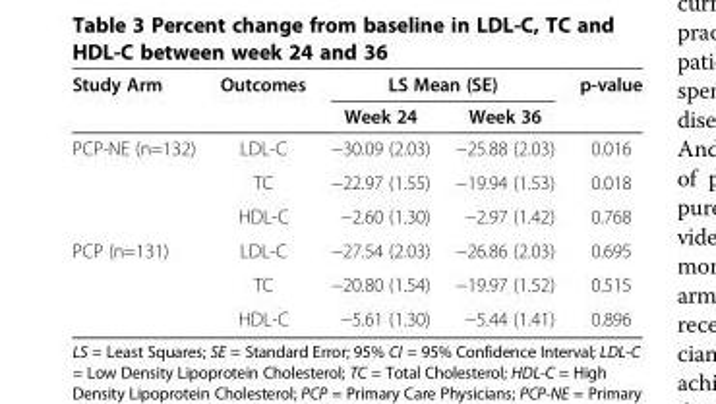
<table><thead><tr><td rowspan="2">Study Arm</td><td rowspan="2">Outcomes</td><td colspan="2">LS Mean (SE)</td><td rowspan="2">p-value</td></tr><tr><td>Week 24</td><td>Week 36</td></tr></thead><tbody><tr><td rowspan="3">PCP-NE (n=132)</td><td>LDL-C</td><td>−30.09 (2.03)</td><td>−25.88 (2.03)</td><td>0.016</td></tr><tr><td>TC</td><td>−22.97 (1.55)</td><td>−19.94 (1.53)</td><td>0.018</td></tr><tr><td>HDL-C</td><td>−2.60 (1.30)</td><td>−2.97 (1.42)</td><td>0.768</td></tr><tr><td rowspan="3">PCP (n=131)</td><td>LDL-C</td><td>−27.54 (2.03)</td><td>−26.86 (2.03)</td><td>0.695</td></tr><tr><td>TC</td><td>−20.80 (1.54)</td><td>−19.97 (1.52)</td><td>0.515</td></tr><tr><td>HDL-C</td><td>−5.61 (1.30)</td><td>−5.44 (1.41)</td><td>0.896</td></tr></tbody></table>